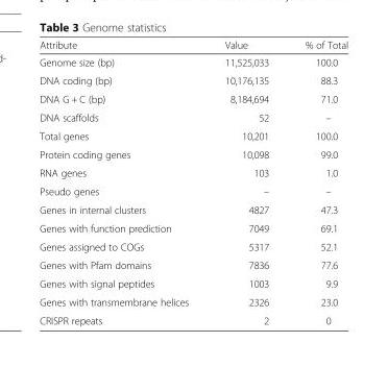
<table><thead><tr><td>Attribute</td><td>Value</td><td>% of Total</td></tr></thead><tbody><tr><td>Genome size (bp)</td><td>11,525,033</td><td>100.0</td></tr><tr><td>DNA coding (bp)</td><td>10,176,135</td><td>88.3</td></tr><tr><td>DNA G + C (bp)</td><td>8,184,694</td><td>71.0</td></tr><tr><td>DNA scaffolds</td><td>52</td><td>–</td></tr><tr><td>Total genes</td><td>10,201</td><td>100.0</td></tr><tr><td>Protein coding genes</td><td>10,098</td><td>99.0</td></tr><tr><td>RNA genes</td><td>103</td><td>1.0</td></tr><tr><td>Pseudo genes</td><td>–</td><td>–</td></tr><tr><td>Genes in internal clusters</td><td>4827</td><td>47.3</td></tr><tr><td>Genes with function prediction</td><td>7049</td><td>69.1</td></tr><tr><td>Genes assigned to COGs</td><td>5317</td><td>52.1</td></tr><tr><td>Genes with Pfam domains</td><td>7836</td><td>77.6</td></tr><tr><td>Genes with signal peptides</td><td>1003</td><td>9.9</td></tr><tr><td>Genes with transmembrane helices</td><td>2326</td><td>23.0</td></tr><tr><td>CRISPR repeats</td><td>2</td><td>0</td></tr></tbody></table>